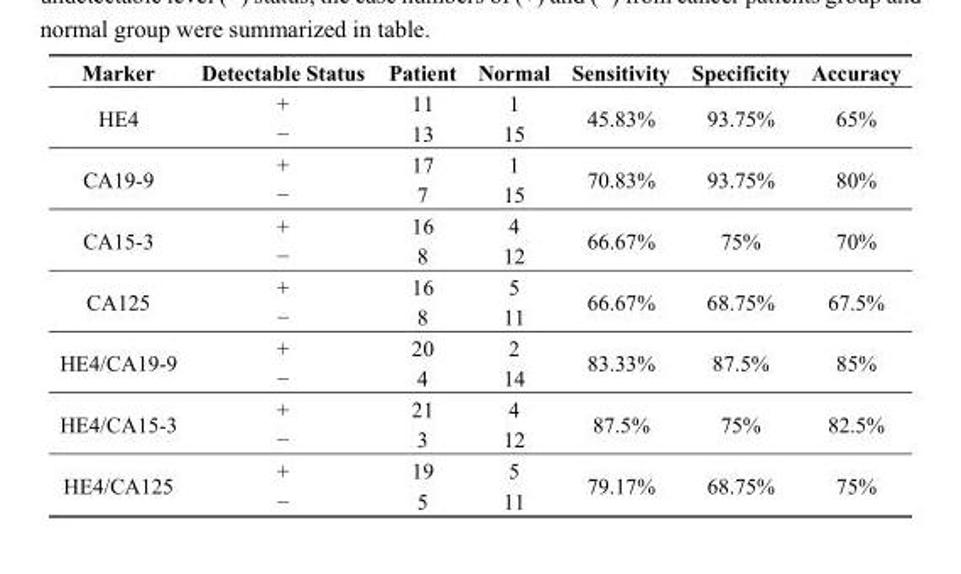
<table><thead><tr><td>Marker</td><td>Detectable Status</td><td>Patient</td><td>Normal</td><td>Sensitivity</td><td>Specificity</td><td>Accuracy</td></tr></thead><tbody><tr><td rowspan="2">HE4</td><td>+</td><td>11</td><td>1</td><td rowspan="2">45.83%</td><td rowspan="2">93.75%</td><td rowspan="2">65%</td></tr><tr><td>−</td><td>13</td><td>15</td></tr><tr><td rowspan="2">CA19-9</td><td>+</td><td>17</td><td>1</td><td rowspan="2">70.83%</td><td rowspan="2">93.75%</td><td rowspan="2">80%</td></tr><tr><td>−</td><td>7</td><td>15</td></tr><tr><td rowspan="2">CA15-3</td><td>+</td><td>16</td><td>4</td><td rowspan="2">66.67%</td><td rowspan="2">75%</td><td rowspan="2">70%</td></tr><tr><td>−</td><td>8</td><td>12</td></tr><tr><td rowspan="2">CA125</td><td>+</td><td>16</td><td>5</td><td rowspan="2">66.67%</td><td rowspan="2">68.75%</td><td rowspan="2">67.5%</td></tr><tr><td>−</td><td>8</td><td>11</td></tr><tr><td rowspan="2">HE4/CA19-9</td><td>+</td><td>20</td><td>2</td><td rowspan="2">83.33%</td><td rowspan="2">87.5%</td><td rowspan="2">85%</td></tr><tr><td>−</td><td>4</td><td>14</td></tr><tr><td rowspan="2">HE4/CA15-3</td><td>+</td><td>21</td><td>4</td><td rowspan="2">87.5%</td><td rowspan="2">75%</td><td rowspan="2">82.5%</td></tr><tr><td>−</td><td>3</td><td>12</td></tr><tr><td rowspan="2">HE4/CA125</td><td>+</td><td>19</td><td>5</td><td rowspan="2">79.17%</td><td rowspan="2">68.75%</td><td rowspan="2">75%</td></tr><tr><td>−</td><td>5</td><td>11</td></tr></tbody></table>